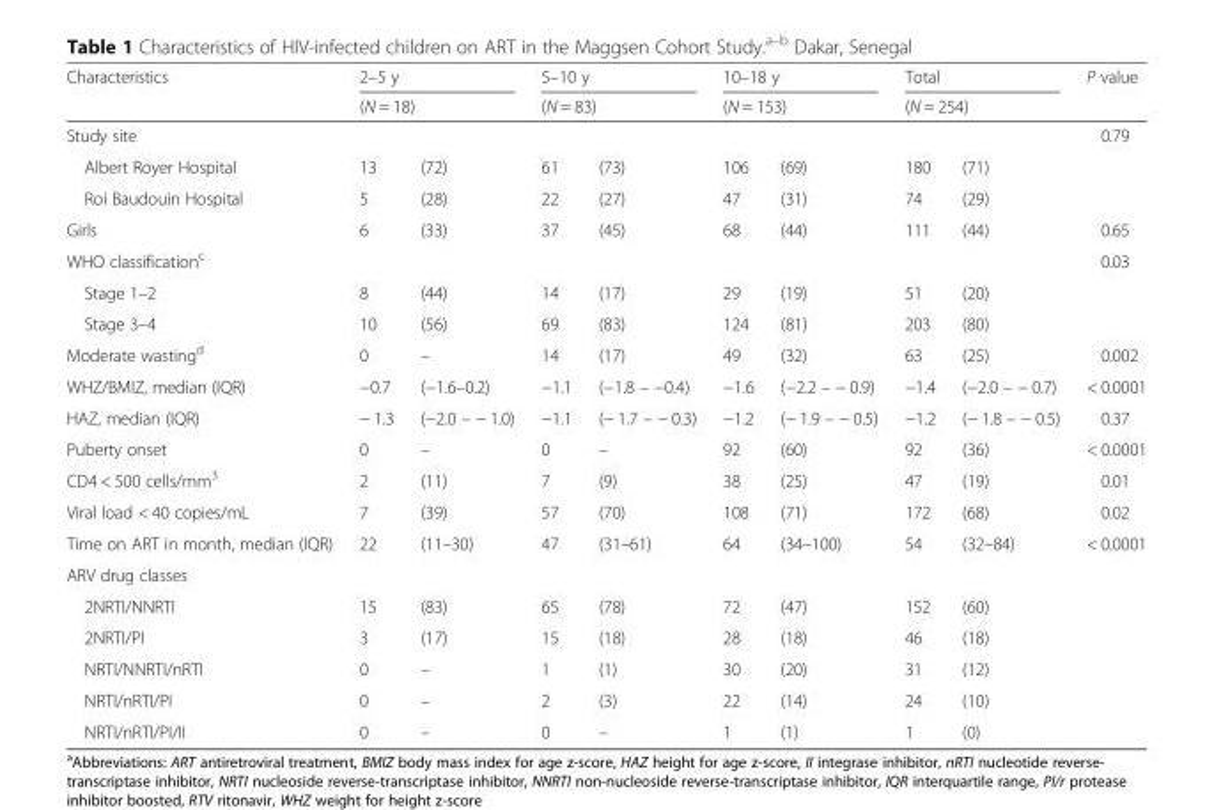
<table><thead><tr><td rowspan="3">Characteristics Study site</td><td rowspan="2" colspan="2">2–5 y (N = 18)</td><td rowspan="2" colspan="2">5–10 y (N = 83)</td><td rowspan="2" colspan="2">10–18 y (N = 153)</td><td rowspan="2" colspan="2">Total (N = 254)</td><td rowspan="3">P value 0.79</td></tr><tr></tr><tr><td></td><td></td><td></td><td></td><td></td><td></td><td></td><td></td></tr></thead><tbody><tr><td>Albert Royer Hospital</td><td>13</td><td>(72)</td><td>61</td><td>(73)</td><td>106</td><td>(69)</td><td>180</td><td>(71)</td><td></td></tr><tr><td>Roi Baudouin Hospital</td><td>5</td><td>(28)</td><td>22</td><td>(27)</td><td>47</td><td>(31)</td><td>74</td><td>(29)</td><td></td></tr><tr><td>Girls</td><td>6</td><td>(33)</td><td>37</td><td>(45)</td><td>68</td><td>(44)</td><td>111</td><td>(44)</td><td>0.65</td></tr><tr><td>WHO classification<sup>c</sup></td><td></td><td></td><td></td><td></td><td></td><td></td><td></td><td></td><td>0.03</td></tr><tr><td>Stage 1–2</td><td>8</td><td>(44)</td><td>14</td><td>(17)</td><td>29</td><td>(19)</td><td>51</td><td>(20)</td><td></td></tr><tr><td>Stage 3–4</td><td>10</td><td>(56)</td><td>69</td><td>(83)</td><td>124</td><td>(81)</td><td>203</td><td>(80)</td><td></td></tr><tr><td>Moderate wasting<sup>d</sup></td><td>0</td><td>–</td><td>14</td><td>(17)</td><td>49</td><td>(32)</td><td>63</td><td>(25)</td><td>0.002</td></tr><tr><td>WHZ/BMIZ, median (IQR)</td><td>−0.7</td><td>(−1.6–0.2)</td><td>−1.1</td><td>(−1.8 – −0.4)</td><td>−1.6</td><td>(−2.2 – − 0.9)</td><td>−1.4</td><td>(−2.0 – − 0.7)</td><td>&lt; 0.0001</td></tr><tr><td>HAZ, median (IQR)</td><td>− 1.3</td><td>(−2.0 – − 1.0)</td><td>−1.1</td><td>(− 1.7 – − 0.3)</td><td>−1.2</td><td>(− 1.9 – − 0.5)</td><td>−1.2</td><td>(− 1.8 – − 0.5)</td><td>0.37</td></tr><tr><td>Puberty onset</td><td>0</td><td>–</td><td>0</td><td>–</td><td>92</td><td>(60)</td><td>92</td><td>(36)</td><td>&lt; 0.0001</td></tr><tr><td>CD4 &lt; 500 cells/mm<sup>3</sup></td><td>2</td><td>(11)</td><td>7</td><td>(9)</td><td>38</td><td>(25)</td><td>47</td><td>(19)</td><td>0.01</td></tr><tr><td>Viral load &lt; 40 copies/mL</td><td>7</td><td>(39)</td><td>57</td><td>(70)</td><td>108</td><td>(71)</td><td>172</td><td>(68)</td><td>0.02</td></tr><tr><td>Time on ART in month, median (IQR)</td><td>22</td><td>(11–30)</td><td>47</td><td>(31–61)</td><td>64</td><td>(34–100)</td><td>54</td><td>(32–84)</td><td>&lt; 0.0001</td></tr><tr><td colspan="10">ARV drug classes</td></tr><tr><td>2NRTI/NNRTI</td><td>15</td><td>(83)</td><td>65</td><td>(78)</td><td>72</td><td>(47)</td><td>152</td><td>(60)</td><td></td></tr><tr><td>2NRTI/PI</td><td>3</td><td>(17)</td><td>15</td><td>(18)</td><td>28</td><td>(18)</td><td>46</td><td>(18)</td><td></td></tr><tr><td>NRTI/NNRTI/nRTI</td><td>0</td><td>–</td><td>1</td><td>(1)</td><td>30</td><td>(20)</td><td>31</td><td>(12)</td><td></td></tr><tr><td>NRTI/nRTI/PI</td><td>0</td><td>–</td><td>2</td><td>(3)</td><td>22</td><td>(14)</td><td>24</td><td>(10)</td><td></td></tr><tr><td>NRTI/nRTI/PI/II</td><td>0</td><td>–</td><td>0</td><td>–</td><td>1</td><td>(1)</td><td>1</td><td>(0)</td><td></td></tr></tbody></table>